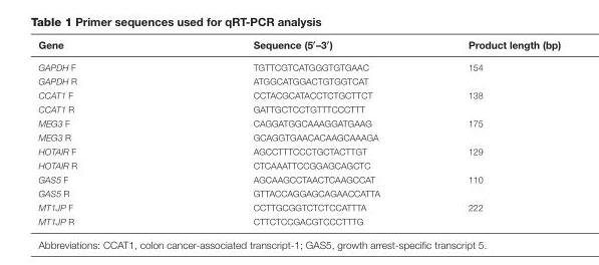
<table><thead><tr><td>Gene</td><td>Sequence (5′–3′)</td><td>Product length (bp)</td></tr></thead><tbody><tr><td>GAPDH F</td><td>TGTTCGTCATGGGTGTGAAC</td><td rowspan="2">154</td></tr><tr><td>GAPDH R</td><td>ATGGCATGGACTGTGGTCAT</td></tr><tr><td>CCAT1 F</td><td>CCTACGCATACCTCTGCTTCT</td><td rowspan="2">138</td></tr><tr><td>CCAT1 R</td><td>GATTGCTCCTGTTTCCCTTT</td></tr><tr><td>MEG3 F</td><td>CAGGATGGCAAAGGATGAAG</td><td rowspan="2">175</td></tr><tr><td>MEG3 R</td><td>GCAGGTGAACACAAGCAAAGA</td></tr><tr><td>HOTAIR F</td><td>AGCCTTTCCCTGCTACTTGT</td><td rowspan="2">129</td></tr><tr><td>HOTAIR R</td><td>CTCAAATTCCGGAGCAGCTC</td></tr><tr><td>GAS5 F</td><td>AGCAAGCCTAACTCAAGCCAT</td><td rowspan="2">110</td></tr><tr><td>GAS5 R</td><td>GTTACCAGGAGCAGAACCATTA</td></tr><tr><td>MT1JP F</td><td>CCTTGCGGTCTCTCCATTTA</td><td rowspan="2">222</td></tr><tr><td>MT1JP R</td><td>CTTCTCCGACGTCCCTTTG</td></tr></tbody></table>